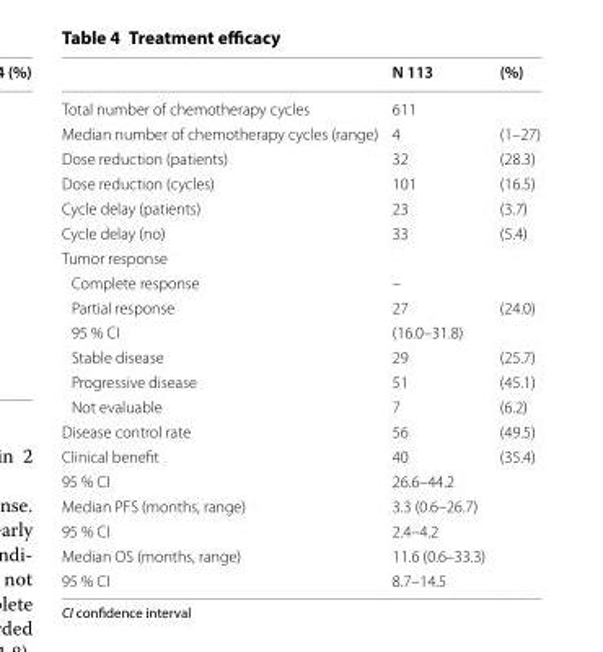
<table><thead><tr><td></td><td>N 113</td><td>(%)</td></tr></thead><tbody><tr><td>Total number of chemotherapy cycles</td><td>611</td><td></td></tr><tr><td>Median number of chemotherapy cycles (range)</td><td>4</td><td>(1–27)</td></tr><tr><td>Dose reduction (patients)</td><td>32</td><td>(28.3)</td></tr><tr><td>Dose reduction (cycles)</td><td>101</td><td>(16.5)</td></tr><tr><td>Cycle delay (patients)</td><td>23</td><td>(3.7)</td></tr><tr><td>Cycle delay (no)</td><td>33</td><td>(5.4)</td></tr><tr><td colspan="3">Tumor response</td></tr><tr><td>Complete response</td><td>–</td><td></td></tr><tr><td>Partial response</td><td>27</td><td>(24.0)</td></tr><tr><td>95 % CI</td><td>(16.0–31.8)</td><td></td></tr><tr><td>Stable disease</td><td>29</td><td>(25.7)</td></tr><tr><td>Progressive disease</td><td>51</td><td>(45.1)</td></tr><tr><td>Not evaluable</td><td>7</td><td>(6.2)</td></tr><tr><td>Disease control rate</td><td>56</td><td>(49.5)</td></tr><tr><td>Clinical benefit</td><td>40</td><td>(35.4)</td></tr><tr><td>95 % CI</td><td>26.6–44.2</td><td></td></tr><tr><td>Median PFS (months, range)</td><td>3.3 (0.6–26.7)</td><td></td></tr><tr><td>95 % CI</td><td>2.4–4.2</td><td></td></tr><tr><td>Median OS (months, range)</td><td>11.6 (0.6–33.3)</td><td></td></tr><tr><td>95 % CI</td><td>8.7–14.5</td><td></td></tr></tbody></table>